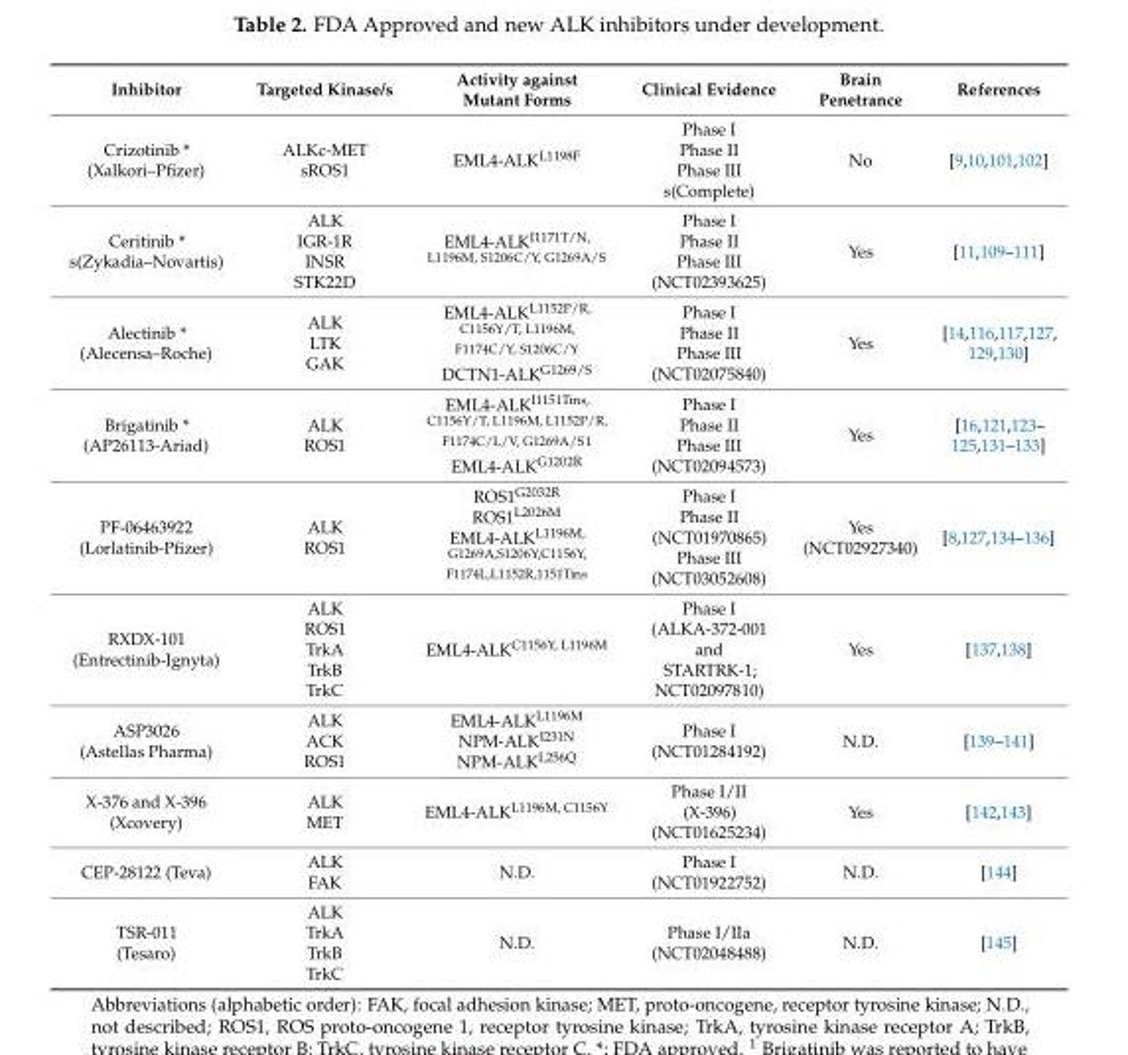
<table><thead><tr><td>Inhibitor</td><td>Targeted Kinase/s</td><td>Activity against Mutant Forms</td><td>Clinical Evidence</td><td>Brain Penetrance</td><td>References</td></tr></thead><tbody><tr><td>Crizotinib * (Xalkori–Pfizer)</td><td>ALKc-MET sROS1</td><td>EML4-ALK<sup>L1198F</sup></td><td>Phase I Phase II Phase III s(Complete)</td><td>No</td><td>[9,10,101,102]</td></tr><tr><td>Ceritinib * s(Zykadia–Novartis)</td><td>ALK IGR-1R INSR STK22D</td><td>EML4-ALK<sup>I1171T/N, L1196M, S1206C/Y, G1269A/S</sup></td><td>Phase I Phase II Phase III (NCT02393625)</td><td>Yes</td><td>[11,109–111]</td></tr><tr><td>Alectinib * (Alecensa–Roche)</td><td>ALK LTK GAK</td><td>EML4-ALK<sup>L1152P/R, C1156Y/T, L1196M, F1174C/Y, S1206C/Y</sup> DCTN1-ALK<sup>G1269/S</sup></td><td>Phase I Phase II Phase III (NCT02075840)</td><td>Yes</td><td>[14,116,117,127, 129,130]</td></tr><tr><td>Brigatinib * (AP26113-Ariad)</td><td>ALK ROS1</td><td>EML4-ALK<sup>I1151Tins, C1156Y/T, L1196M, L1152P/R, F1174C/L/V, G1269A/S1</sup> EML4-ALK<sup>G1202R</sup></td><td>Phase I Phase II Phase III (NCT02094573)</td><td>Yes</td><td>[16,121,123– 125,131–133]</td></tr><tr><td>PF-06463922 (Lorlatinib-Pfizer)</td><td>ALK ROS1</td><td>ROS1<sup>G2032R</sup> ROS1<sup>L2026M</sup> EML4-ALK<sup>L1196M, G1269A,S1206Y,C1156Y, F1174L,L1152R,1151Tins</sup></td><td>Phase I Phase II (NCT01970865) Phase III (NCT03052608)</td><td>Yes (NCT02927340)</td><td>[8,127,134–136]</td></tr><tr><td>RXDX-101 (Entrectinib-Ignyta)</td><td>ALK ROS1 TrkA TrkB TrkC</td><td>EML4-ALK<sup>C1156Y, L1196M</sup></td><td>Phase I (ALKA-372-001 and STARTRK-1; NCT02097810)</td><td>Yes</td><td>[137,138]</td></tr><tr><td>ASP3026 (Astellas Pharma)</td><td>ALK ACK ROS1</td><td>EML4-ALK<sup>L1196M</sup> NPM-ALK<sup>I231N</sup> NPM-ALK<sup>L256Q</sup></td><td>Phase I (NCT01284192)</td><td>N.D.</td><td>[139–141]</td></tr><tr><td>X-376 and X-396 (Xcovery)</td><td>ALK MET</td><td>EML4-ALK<sup>L1196M, C1156Y</sup></td><td>Phase I/II (X-396) (NCT01625234)</td><td>Yes</td><td>[142,143]</td></tr><tr><td>CEP-28122 (Teva)</td><td>ALK FAK</td><td>N.D.</td><td>Phase I (NCT01922752)</td><td>N.D.</td><td>[144]</td></tr><tr><td>TSR-011 (Tesaro)</td><td>ALK TrkA TrkB TrkC</td><td>N.D.</td><td>Phase I/IIa (NCT02048488)</td><td>N.D.</td><td>[145]</td></tr></tbody></table>